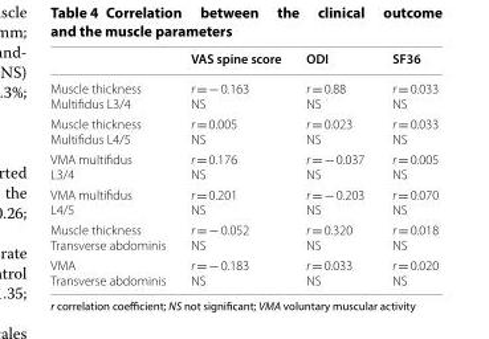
<table><thead><tr><td></td><td>VAS spine score</td><td>ODI</td><td>SF36</td></tr></thead><tbody><tr><td>Muscle thickness Multifidus L3/4</td><td>r = − 0.163 NS</td><td>r = 0.88 NS</td><td>r = 0.033 NS</td></tr><tr><td>Muscle thickness Multifidus L4/5</td><td>r = 0.005 NS</td><td>r = 0.023 NS</td><td>r = 0.033 NS</td></tr><tr><td>VMA multifidus L3/4</td><td>r = 0.176 NS</td><td>r = − 0.037 NS</td><td>r = 0.005 NS</td></tr><tr><td>VMA multifidus L4/5</td><td>r = 0.201 NS</td><td>r = − 0.203 NS</td><td>r = 0.070 NS</td></tr><tr><td>Muscle thickness Transverse abdominis</td><td>r = − 0.052 NS</td><td>r = 0.320 NS</td><td>r = 0.018 NS</td></tr><tr><td>VMA Transverse abdominis</td><td>r = − 0.183 NS</td><td>r = 0.033 NS</td><td>r = 0.020 NS</td></tr></tbody></table>